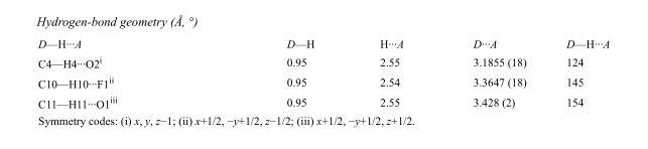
<table><tbody><tr><td>D—H···A</td><td>D—H</td><td>H···A</td><td>D···A</td><td>D—H···A</td></tr><tr><td>C4—H4···O2<sup>i</sup></td><td>0.95</td><td>2.55</td><td>3.1855 (18)</td><td>124</td></tr><tr><td>C10—H10···F1<sup>ii</sup></td><td>0.95</td><td>2.54</td><td>3.3647 (18)</td><td>145</td></tr><tr><td>C11—H11···O1<sup>iii</sup></td><td>0.95</td><td>2.55</td><td>3.428 (2)</td><td>154</td></tr></tbody></table>